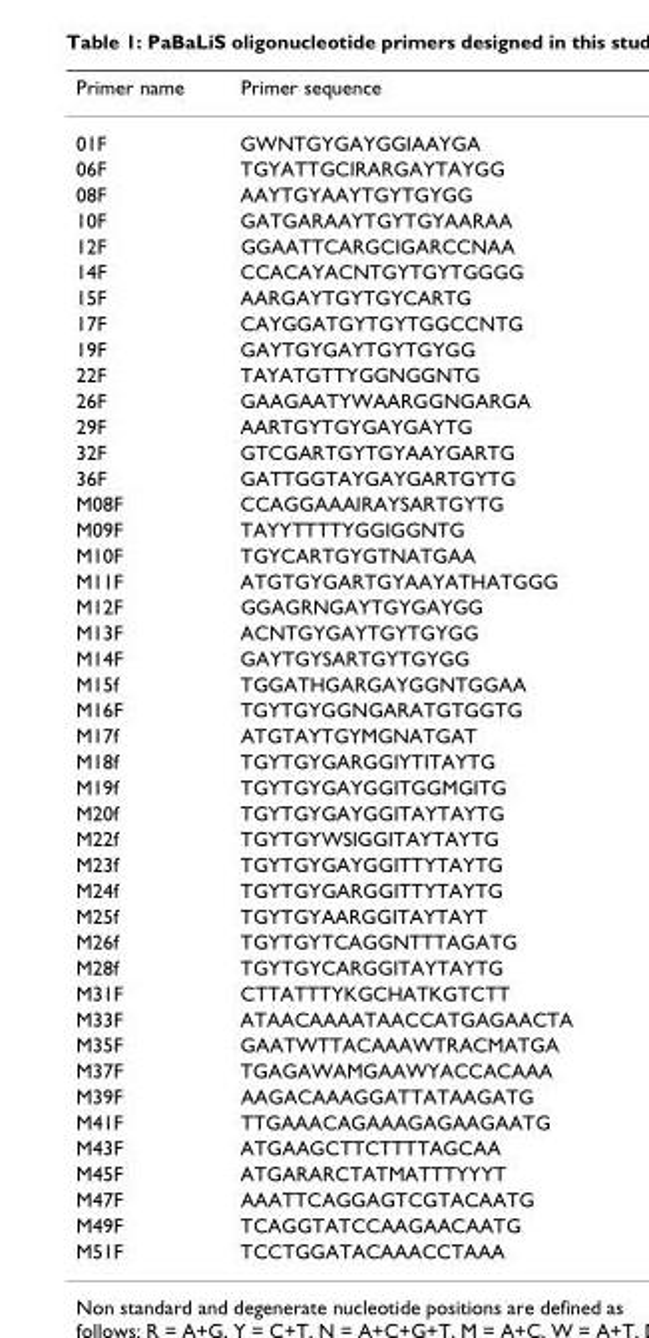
<table><thead><tr><td>Primer name</td><td>Primer sequence</td></tr></thead><tbody><tr><td>01F</td><td>GWNTGYGAYGGIAAYGA</td></tr><tr><td>06F</td><td>TGYATTGCIRARGAYTAYGG</td></tr><tr><td>08F</td><td>AAYTGYAAYTGYTGYGG</td></tr><tr><td>10F</td><td>GATGARAAYTGYTGYAARAA</td></tr><tr><td>12F</td><td>GGAATTCARGCIGARCCNAA</td></tr><tr><td>14F</td><td>CCACAYACNTGYTGYTGGGG</td></tr><tr><td>15F</td><td>AARGAYTGYTGYCARTG</td></tr><tr><td>17F</td><td>CAYGGATGYTGYTGGCCNTG</td></tr><tr><td>19F</td><td>GAYTGYGAYTGYTGYGG</td></tr><tr><td>22F</td><td>TAYATGTTYGGNGGNTG</td></tr><tr><td>26F</td><td>GAAGAATYWAARGGNGARGA</td></tr><tr><td>29F</td><td>AARTGYTGYGAYGAYTG</td></tr><tr><td>32F</td><td>GTCGARTGYTGYAAYGARTG</td></tr><tr><td>36F</td><td>GATTGGTAYGAYGARTGYTG</td></tr><tr><td>M08F</td><td>CCAGGAAAIRAYSARTGYTG</td></tr><tr><td>M09F</td><td>TAYYTTTTYGGIGGNTG</td></tr><tr><td>M10F</td><td>TGYCARTGYGTNATGAA</td></tr><tr><td>M11F</td><td>ATGTGYGARTGYAAYATHATGGG</td></tr><tr><td>M12F</td><td>GGAGRNGAYTGYGAYGG</td></tr><tr><td>M13F</td><td>ACNTGYGAYTGYTGYGG</td></tr><tr><td>M14F</td><td>GAYTGYSARTGYTGYGG</td></tr><tr><td>M15f</td><td>TGGATHGARGAYGGNTGGAA</td></tr><tr><td>M16F</td><td>TGYTGYGGNGARATGTGGTG</td></tr><tr><td>M17f</td><td>ATGTAYTGYMGNATGAT</td></tr><tr><td>M18f</td><td>TGYTGYGARGGIYTITAYTG</td></tr><tr><td>M19f</td><td>TGYTGYGAYGGITGGMGITG</td></tr><tr><td>M20f</td><td>TGYTGYGAYGGITAYTAYTG</td></tr><tr><td>M22f</td><td>TGYTGYWSIGGITAYTAYTG</td></tr><tr><td>M23f</td><td>TGYTGYGAYGGITTYTAYTG</td></tr><tr><td>M24f</td><td>TGYTGYGARGGITTYTAYTG</td></tr><tr><td>M25f</td><td>TGYTGYAARGGITAYTAYT</td></tr><tr><td>M26f</td><td>TGYTGYTCAGGNTTTAGATG</td></tr><tr><td>M28f</td><td>TGYTGYCARGGITAYTAYTG</td></tr><tr><td>M31F</td><td>CTTATTTYKGCHATKGTCTT</td></tr><tr><td>M33F</td><td>ATAACAAAATAACCATGAGAACTA</td></tr><tr><td>M35F</td><td>GAATWTTACAAAWTRACMATGA</td></tr><tr><td>M37F</td><td>TGAGAWAMGAAWYACCACAAA</td></tr><tr><td>M39F</td><td>AAGACAAAGGATTATAAGATG</td></tr><tr><td>M41F</td><td>TTGAAACAGAAAGAGAAGAATG</td></tr><tr><td>M43F</td><td>ATGAAGCTTCTTTTAGCAA</td></tr><tr><td>M45F</td><td>ATGARARCTATMATTTYYYT</td></tr><tr><td>M47F</td><td>AAATTCAGGAGTCGTACAATG</td></tr><tr><td>M49F</td><td>TCAGGTATCCAAGAACAATG</td></tr><tr><td>M51F</td><td>TCCTGGATACAAACCTAAA</td></tr></tbody></table>